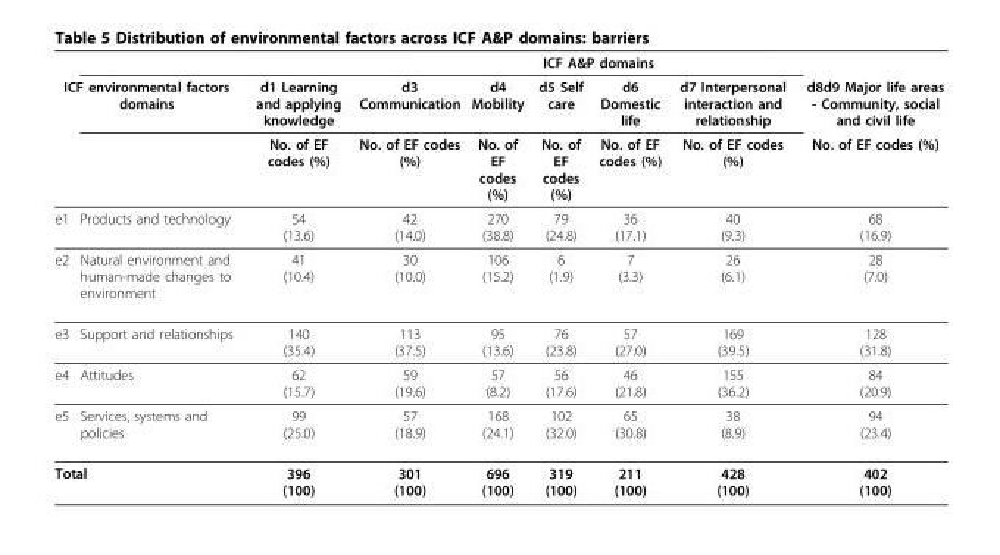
<table><thead><tr><td></td><td></td><td colspan="7">ICF A&amp;P domains</td></tr><tr><td colspan="2">ICF environmental factors domains</td><td rowspan="2">d1 Learning and applying knowledge No. of EF codes (%)</td><td rowspan="2">d3 Communication No. of EF codes (%)</td><td rowspan="2">d4 Mobility No. of EF codes (%)</td><td rowspan="2">d5 Self care No. of EF codes (%)</td><td rowspan="2">d6 Domestic life No. of EF codes (%)</td><td rowspan="2">d7 Interpersonal interaction and relationship No. of EF codes (%)</td><td rowspan="2">d8d9 Major life areas - Community, social and civil life No. of EF codes (%)</td></tr><tr><td></td><td></td></tr></thead><tbody><tr><td>e1</td><td>Products and technology</td><td>54 (13.6)</td><td>42 (14.0)</td><td>270 (38.8)</td><td>79 (24.8)</td><td>36 (17.1)</td><td>40 (9.3)</td><td>68 (16.9)</td></tr><tr><td>e2</td><td>Natural environment and human-made changes to environment</td><td>41 (10.4)</td><td>30 (10.0)</td><td>106 (15.2)</td><td>6 (1.9)</td><td>7 (3.3)</td><td>26 (6.1)</td><td>28 (7.0)</td></tr><tr><td>e3</td><td>Support and relationships</td><td>140 (35.4)</td><td>113 (37.5)</td><td>95 (13.6)</td><td>76 (23.8)</td><td>57 (27.0)</td><td>169 (39.5)</td><td>128 (31.8)</td></tr><tr><td>e4</td><td>Attitudes</td><td>62 (15.7)</td><td>59 (19.6)</td><td>57 (8.2)</td><td>56 (17.6)</td><td>46 (21.8)</td><td>155 (36.2)</td><td>84 (20.9)</td></tr><tr><td>e5</td><td>Services, systems and policies</td><td>99 (25.0)</td><td>57 (18.9)</td><td>168 (24.1)</td><td>102 (32.0)</td><td>65 (30.8)</td><td>38 (8.9)</td><td>94 (23.4)</td></tr><tr><td colspan="2">Total</td><td>396 (100)</td><td>301 (100)</td><td>696 (100)</td><td>319 (100)</td><td>211 (100)</td><td>428 (100)</td><td>402 (100)</td></tr></tbody></table>